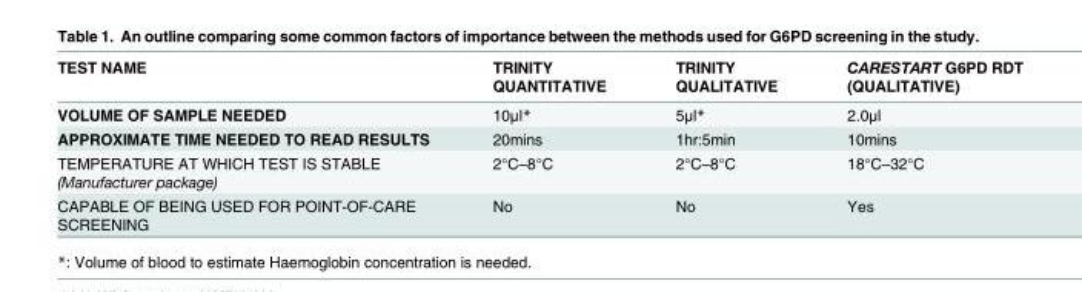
<table><thead><tr><td>TEST NAME</td><td>TRINITY QUANTITATIVE</td><td>TRINITY QUALITATIVE</td><td>CARESTART G6PD RDT (QUALITATIVE)</td></tr></thead><tbody><tr><td>VOLUME OF SAMPLE NEEDED</td><td>10μl*</td><td>5μl*</td><td>2.0μl</td></tr><tr><td>APPROXIMATE TIME NEEDED TO READ RESULTS</td><td>20mins</td><td>1hr:5min</td><td>10mins</td></tr><tr><td>TEMPERATURE AT WHICH TEST IS STABLE (Manufacturer package)</td><td>2°C–8°C</td><td>2°C–8°C</td><td>18°C–32°C</td></tr><tr><td>CAPABLE OF BEING USED FOR POINT-OF-CARE SCREENING</td><td>No</td><td>No</td><td>Yes</td></tr></tbody></table>